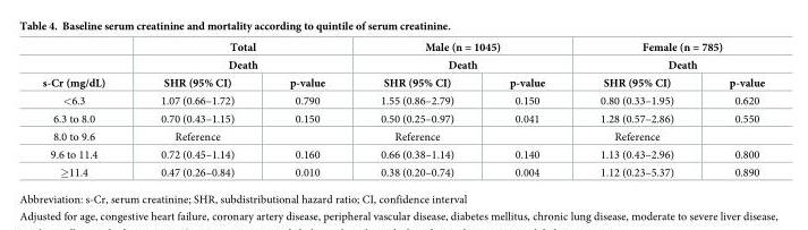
<table><thead><tr><td rowspan="3">s-Cr (mg/dL)</td><td rowspan="2" colspan="2">Total Death</td><td rowspan="2" colspan="2">Male (n = 1045) Death</td><td rowspan="2" colspan="2">Female (n = 785) Death</td></tr><tr></tr><tr><td>SHR (95% CI)</td><td>p-value</td><td>SHR (95% CI)</td><td>p-value</td><td>SHR (95% CI)</td><td>p-value</td></tr></thead><tbody><tr><td>&lt;6.3</td><td>1.07 (0.66–1.72)</td><td>0.790</td><td>1.55 (0.86–2.79)</td><td>0.150</td><td>0.80 (0.33–1.95)</td><td>0.620</td></tr><tr><td>6.3 to 8.0</td><td>0.70 (0.43–1.15)</td><td>0.150</td><td>0.50 (0.25–0.97)</td><td>0.041</td><td>1.28 (0.57–2.86)</td><td>0.550</td></tr><tr><td>8.0 to 9.6</td><td>Reference</td><td></td><td>Reference</td><td></td><td>Reference</td><td></td></tr><tr><td>9.6 to 11.4</td><td>0.72 (0.45–1.14)</td><td>0.160</td><td>0.66 (0.38–1.14)</td><td>0.140</td><td>1.13 (0.43–2.96)</td><td>0.800</td></tr><tr><td>≥11.4</td><td>0.47 (0.26–0.84)</td><td>0.010</td><td>0.38 (0.20–0.74)</td><td>0.004</td><td>1.12 (0.23–5.37)</td><td>0.890</td></tr></tbody></table>